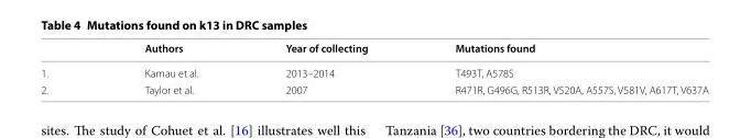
<table><thead><tr><td></td><td>Authors</td><td>Year of collecting</td><td>Mutations found</td></tr></thead><tbody><tr><td>1.</td><td>Kamau et al.</td><td>2013–2014</td><td>T493T, A578S</td></tr><tr><td>2.</td><td>Taylor et al.</td><td>2007</td><td>R471R, G496G, R513R, V520A, A557S, V581V, A617T, V637A</td></tr></tbody></table>